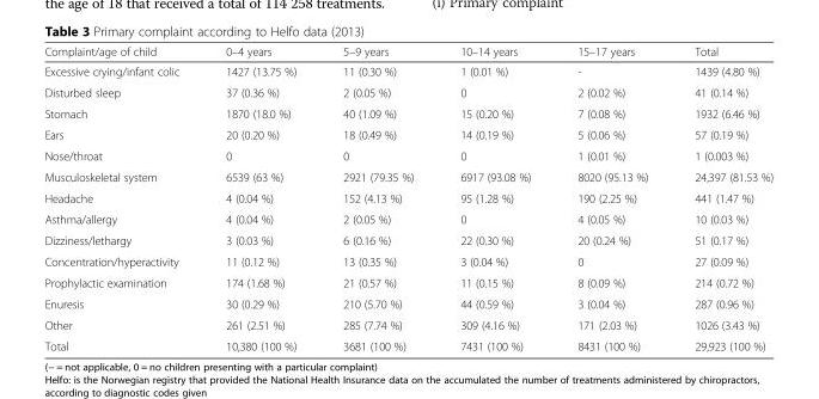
<table><thead><tr><td>Complaint/age of child</td><td>0–4 years</td><td>5–9 years</td><td>10–14 years</td><td>15–17 years</td><td>Total</td></tr></thead><tbody><tr><td>Excessive crying/infant colic</td><td>1427 (13.75 %)</td><td>11 (0.30 %)</td><td>1 (0.01 %)</td><td>-</td><td>1439 (4.80 %)</td></tr><tr><td>Disturbed sleep</td><td>37 (0.36 %)</td><td>2 (0.05 %)</td><td>0</td><td>2 (0.02 %)</td><td>41 (0.14 %)</td></tr><tr><td>Stomach</td><td>1870 (18.0 %)</td><td>40 (1.09 %)</td><td>15 (0.20 %)</td><td>7 (0.08 %)</td><td>1932 (6.46 %)</td></tr><tr><td>Ears</td><td>20 (0.20 %)</td><td>18 (0.49 %)</td><td>14 (0.19 %)</td><td>5 (0.06 %)</td><td>57 (0.19 %)</td></tr><tr><td>Nose/throat</td><td>0</td><td>0</td><td>0</td><td>1 (0.01 %)</td><td>1 (0.003 %)</td></tr><tr><td>Musculoskeletal system</td><td>6539 (63 %)</td><td>2921 (79.35 %)</td><td>6917 (93.08 %)</td><td>8020 (95.13 %)</td><td>24,397 (81.53 %)</td></tr><tr><td>Headache</td><td>4 (0.04 %)</td><td>152 (4.13 %)</td><td>95 (1.28 %)</td><td>190 (2.25 %)</td><td>441 (1.47 %)</td></tr><tr><td>Asthma/allergy</td><td>4 (0.04 %)</td><td>2 (0.05 %)</td><td>0</td><td>4 (0.05 %)</td><td>10 (0.03 %)</td></tr><tr><td>Dizziness/lethargy</td><td>3 (0.03 %)</td><td>6 (0.16 %)</td><td>22 (0.30 %)</td><td>20 (0.24 %)</td><td>51 (0.17 %)</td></tr><tr><td>Concentration/hyperactivity</td><td>11 (0.12 %)</td><td>13 (0.35 %)</td><td>3 (0.04 %)</td><td>0</td><td>27 (0.09 %)</td></tr><tr><td>Prophylactic examination</td><td>174 (1.68 %)</td><td>21 (0.57 %)</td><td>11 (0.15 %)</td><td>8 (0.09 %)</td><td>214 (0.72 %)</td></tr><tr><td>Enuresis</td><td>30 (0.29 %)</td><td>210 (5.70 %)</td><td>44 (0.59 %)</td><td>3 (0.04 %)</td><td>287 (0.96 %)</td></tr><tr><td>Other</td><td>261 (2.51 %)</td><td>285 (7.74 %)</td><td>309 (4.16 %)</td><td>171 (2.03 %)</td><td>1026 (3.43 %)</td></tr><tr><td>Total</td><td>10,380 (100 %)</td><td>3681 (100 %)</td><td>7431 (100 %)</td><td>8431 (100 %)</td><td>29,923 (100 %)</td></tr></tbody></table>